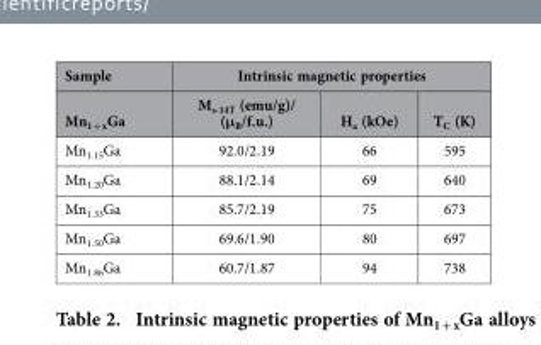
<table><thead><tr><td rowspan="2">Sample Mn<sub>1 + x</sub>Ga</td><td colspan="3">Intrinsic magnetic properties</td></tr><tr><td>M<sub>s-14T</sub> (emu/g)/ (μ<sub>B</sub>/f.u.)</td><td>H<sub>a</sub> (kOe)</td><td>T<sub>C</sub> (K)</td></tr></thead><tbody><tr><td>Mn<sub>1.15</sub>Ga</td><td>92.0/2.19</td><td>66</td><td>595</td></tr><tr><td>Mn<sub>1.20</sub>Ga</td><td>88.1/2.14</td><td>69</td><td>640</td></tr><tr><td>Mn<sub>1.33</sub>Ga</td><td>85.7/2.19</td><td>75</td><td>673</td></tr><tr><td>Mn<sub>1.50</sub>Ga</td><td>69.6/1.90</td><td>80</td><td>697</td></tr><tr><td>Mn<sub>1.86</sub>Ga</td><td>60.7/1.87</td><td>94</td><td>738</td></tr></tbody></table>